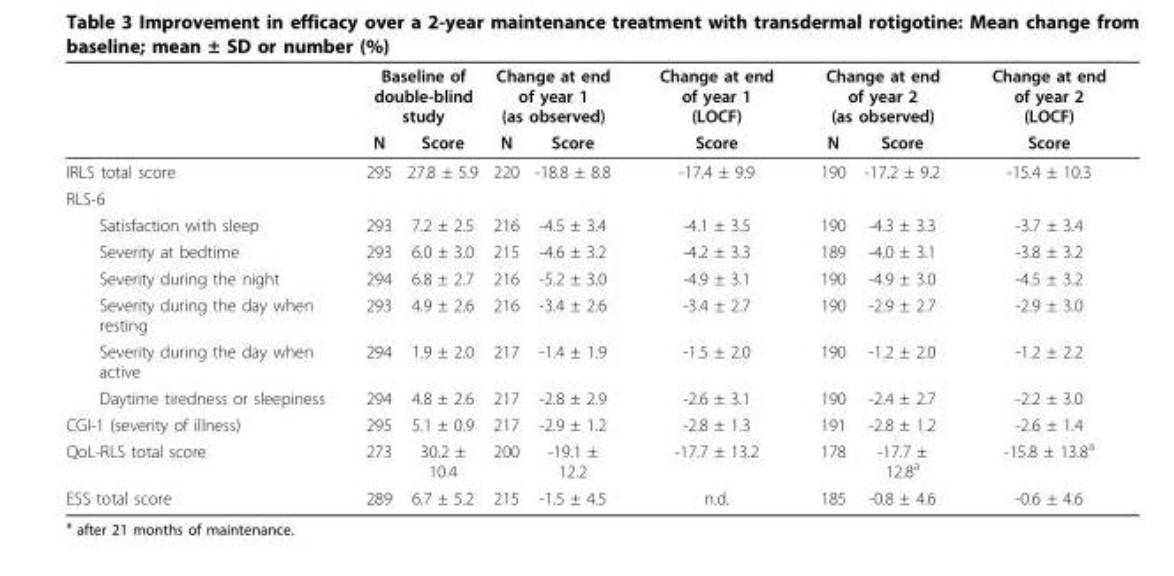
<table><thead><tr><td rowspan="2"></td><td colspan="2">Baseline of double-blind study</td><td colspan="2">Change at end of year 1 (as observed)</td><td rowspan="2">Change at end of year 1 (LOCF) Score</td><td colspan="2">Change at end of year 2 (as observed)</td><td rowspan="2">Change at end of year 2 (LOCF) Score</td></tr><tr><td>N</td><td>Score</td><td>N</td><td>Score</td><td>N</td><td>Score</td></tr></thead><tbody><tr><td>IRLS total score</td><td>295</td><td>27.8 ± 5.9</td><td>220</td><td>-18.8 ± 8.8</td><td>-17.4 ± 9.9</td><td>190</td><td>-17.2 ± 9.2</td><td>-15.4 ± 10.3</td></tr><tr><td colspan="9">RLS-6</td></tr><tr><td>Satisfaction with sleep</td><td>293</td><td>7.2 ± 2.5</td><td>216</td><td>-4.5 ± 3.4</td><td>-4.1 ± 3.5</td><td>190</td><td>-4.3 ± 3.3</td><td>-3.7 ± 3.4</td></tr><tr><td>Severity at bedtime</td><td>293</td><td>6.0 ± 3.0</td><td>215</td><td>-4.6 ± 3.2</td><td>-4.2 ± 3.3</td><td>189</td><td>-4.0 ± 3.1</td><td>-3.8 ± 3.2</td></tr><tr><td>Severity during the night</td><td>294</td><td>6.8 ± 2.7</td><td>216</td><td>-5.2 ± 3.0</td><td>-4.9 ± 3.1</td><td>190</td><td>-4.9 ± 3.0</td><td>-4.5 ± 3.2</td></tr><tr><td>Severity during the day when resting</td><td>293</td><td>4.9 ± 2.6</td><td>216</td><td>-3.4 ± 2.6</td><td>-3.4 ± 2.7</td><td>190</td><td>-2.9 ± 2.7</td><td>-2.9 ± 3.0</td></tr><tr><td>Severity during the day when active</td><td>294</td><td>1.9 ± 2.0</td><td>217</td><td>-1.4 ± 1.9</td><td>-1.5 ± 2.0</td><td>190</td><td>-1.2 ± 2.0</td><td>-1.2 ± 2.2</td></tr><tr><td>Daytime tiredness or sleepiness</td><td>294</td><td>4.8 ± 2.6</td><td>217</td><td>-2.8 ± 2.9</td><td>-2.6 ± 3.1</td><td>190</td><td>-2.4 ± 2.7</td><td>-2.2 ± 3.0</td></tr><tr><td>CGI-1 (severity of illness)</td><td>295</td><td>5.1 ± 0.9</td><td>217</td><td>-2.9 ± 1.2</td><td>-2.8 ± 1.3</td><td>191</td><td>-2.8 ± 1.2</td><td>-2.6 ± 1.4</td></tr><tr><td>QoL-RLS total score</td><td>273</td><td>30.2 ± 10.4</td><td>200</td><td>-19.1 ± 12.2</td><td>-17.7 ± 13.2</td><td>178</td><td>-17.7 ± 12.8<sup>a</sup></td><td>-15.8 ± 13.8<sup>a</sup></td></tr><tr><td>ESS total score</td><td>289</td><td>6.7 ± 5.2</td><td>215</td><td>-1.5 ± 4.5</td><td>n.d.</td><td>185</td><td>-0.8 ± 4.6</td><td>-0.6 ± 4.6</td></tr></tbody></table>